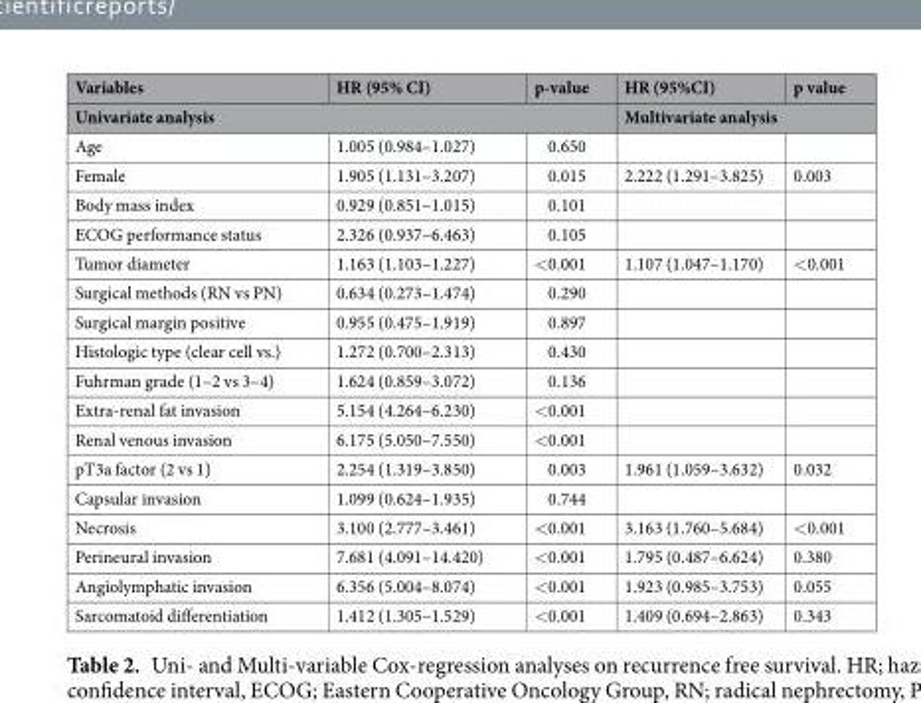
<table><thead><tr><td>Variables</td><td>HR (95% CI)</td><td>p-value</td><td>HR (95%CI)</td><td>p value</td></tr><tr><td colspan="3">Univariate analysis</td><td colspan="2">Multivariate analysis</td></tr></thead><tbody><tr><td>Age</td><td>1.005 (0.984–1.027)</td><td>0.650</td><td></td><td></td></tr><tr><td>Female</td><td>1.905 (1.131–3.207)</td><td>0.015</td><td>2.222 (1.291–3.825)</td><td>0.003</td></tr><tr><td>Body mass index</td><td>0.929 (0.851–1.015)</td><td>0.101</td><td></td><td></td></tr><tr><td>ECOG performance status</td><td>2.326 (0.937–6.463)</td><td>0.105</td><td></td><td></td></tr><tr><td>Tumor diameter</td><td>1.163 (1.103–1.227)</td><td>&lt;0.001</td><td>1.107 (1.047–1.170)</td><td>&lt;0.001</td></tr><tr><td>Surgical methods (RN vs PN)</td><td>0.634 (0.273–1.474)</td><td>0.290</td><td></td><td></td></tr><tr><td>Surgical margin positive</td><td>0.955 (0.475–1.919)</td><td>0.897</td><td></td><td></td></tr><tr><td>Histologic type (clear cell vs.)</td><td>1.272 (0.700–2.313)</td><td>0.430</td><td></td><td></td></tr><tr><td>Fuhrman grade (1–2 vs 3–4)</td><td>1.624 (0.859–3.072)</td><td>0.136</td><td></td><td></td></tr><tr><td>Extra-renal fat invasion</td><td>5.154 (4.264–6.230)</td><td>&lt;0.001</td><td></td><td></td></tr><tr><td>Renal venous invasion</td><td>6.175 (5.050–7.550)</td><td>&lt;0.001</td><td></td><td></td></tr><tr><td>pT3a factor (2 vs 1)</td><td>2.254 (1.319–3.850)</td><td>0.003</td><td>1.961 (1.059–3.632)</td><td>0.032</td></tr><tr><td>Capsular invasion</td><td>1.099 (0.624–1.935)</td><td>0.744</td><td></td><td></td></tr><tr><td>Necrosis</td><td>3.100 (2.777–3.461)</td><td>&lt;0.001</td><td>3.163 (1.760–5.684)</td><td>&lt;0.001</td></tr><tr><td>Perineural invasion</td><td>7.681 (4.091–14.420)</td><td>&lt;0.001</td><td>1.795 (0.487–6.624)</td><td>0.380</td></tr><tr><td>Angiolymphatic invasion</td><td>6.356 (5.004–8.074)</td><td>&lt;0.001</td><td>1.923 (0.985–3.753)</td><td>0.055</td></tr><tr><td>Sarcomatoid differentiation</td><td>1.412 (1.305–1.529)</td><td>&lt;0.001</td><td>1.409 (0.694–2.863)</td><td>0.343</td></tr></tbody></table>